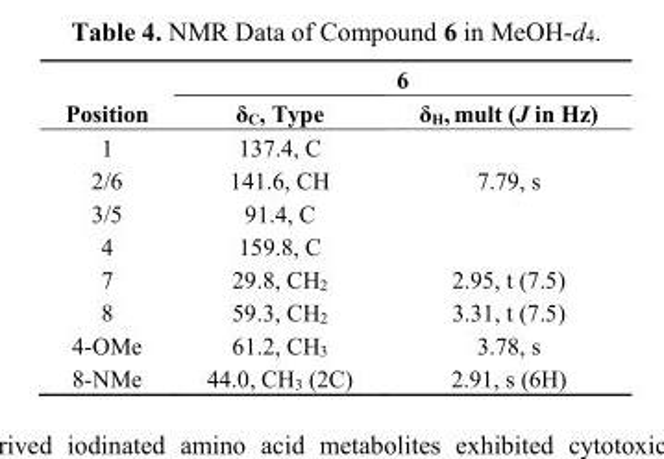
<table><thead><tr><td rowspan="2">Position</td><td colspan="2">6</td></tr><tr><td>δ<sub>C</sub>, Type</td><td>δ<sub>H</sub>, mult (J in Hz)</td></tr></thead><tbody><tr><td>1</td><td>137.4, C</td><td></td></tr><tr><td>2/6</td><td>141.6, CH</td><td>7.79, s</td></tr><tr><td>3/5</td><td>91.4, C</td><td></td></tr><tr><td>4</td><td>159.8, C</td><td></td></tr><tr><td>7</td><td>29.8, CH<sub>2</sub></td><td>2.95, t (7.5)</td></tr><tr><td>8</td><td>59.3, CH<sub>2</sub></td><td>3.31, t (7.5)</td></tr><tr><td>4-OMe</td><td>61.2, CH<sub>3</sub></td><td>3.78, s</td></tr><tr><td>8-NMe</td><td>44.0, CH<sub>3</sub> (2C)</td><td>2.91, s (6H)</td></tr></tbody></table>